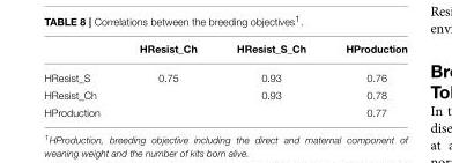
<table><thead><tr><td></td><td>HResist_Ch</td><td>HResist_S_Ch</td><td>HProduction</td></tr></thead><tbody><tr><td>HResist_S</td><td>0.75</td><td>0.93</td><td>0.76</td></tr><tr><td>HResist_Ch</td><td></td><td>0.93</td><td>0.78</td></tr><tr><td>HProduction</td><td></td><td></td><td>0.77</td></tr></tbody></table>